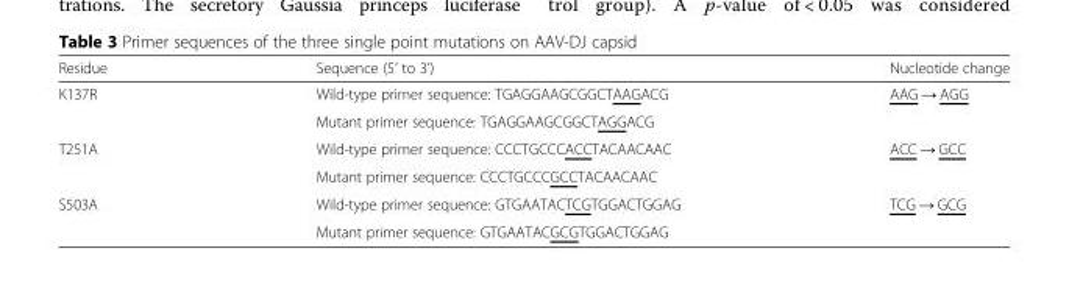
<table><thead><tr><td>Residue</td><td>Sequence (5’ to 3’)</td><td>Nucleotide change</td></tr></thead><tbody><tr><td rowspan="2">K137R</td><td>Wild-type primer sequence: TGAGGAAGCGGCTAAGACG</td><td rowspan="2">AAG → AGG</td></tr><tr><td>Mutant primer sequence: TGAGGAAGCGGCTAGGACG</td></tr><tr><td rowspan="2">T251A</td><td>Wild-type primer sequence: CCCTGCCCACCTACAACAAC</td><td rowspan="2">ACC → GCC</td></tr><tr><td>Mutant primer sequence: CCCTGCCCGCCTACAACAAC</td></tr><tr><td rowspan="2">S503A</td><td>Wild-type primer sequence: GTGAATACTCGTGGACTGGAG</td><td rowspan="2">TCG → GCG</td></tr><tr><td>Mutant primer sequence: GTGAATACGCGTGGACTGGAG</td></tr></tbody></table>